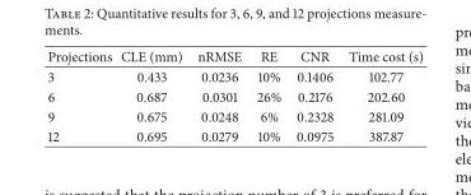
<table><thead><tr><td>Projections</td><td>CLE (mm)</td><td>nRMSE</td><td>RE</td><td>CNR</td><td>Time cost (s)</td></tr></thead><tbody><tr><td>3</td><td>0.433</td><td>0.0236</td><td>10%</td><td>0.1406</td><td>102.77</td></tr><tr><td>6</td><td>0.687</td><td>0.0301</td><td>26%</td><td>0.2176</td><td>202.60</td></tr><tr><td>9</td><td>0.675</td><td>0.0248</td><td>6%</td><td>0.2328</td><td>281.09</td></tr><tr><td>12</td><td>0.695</td><td>0.0279</td><td>10%</td><td>0.0975</td><td>387.87</td></tr></tbody></table>